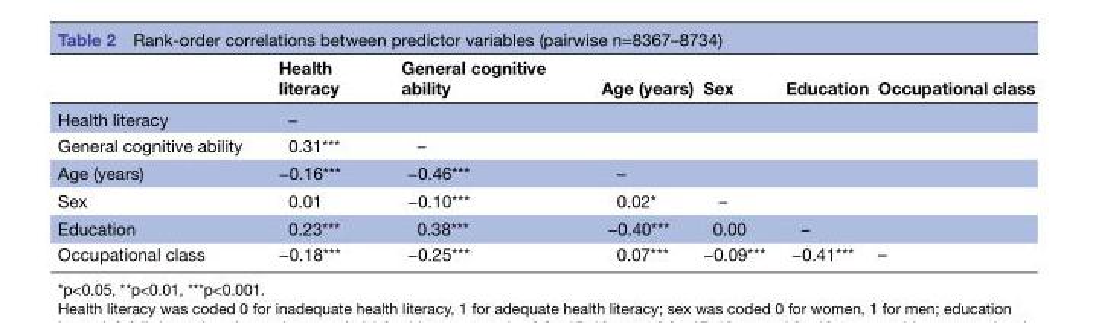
<table><thead><tr><td></td><td>Health literacy</td><td>General cognitive ability</td><td>Age (years)</td><td>Sex</td><td>Education</td><td>Occupational class</td></tr></thead><tbody><tr><td>Health literacy</td><td>–</td><td></td><td></td><td></td><td></td><td></td></tr><tr><td>General cognitive ability</td><td>0.31***</td><td>–</td><td></td><td></td><td></td><td></td></tr><tr><td>Age (years)</td><td>−0.16***</td><td>−0.46***</td><td>–</td><td></td><td></td><td></td></tr><tr><td>Sex</td><td>0.01</td><td>−0.10***</td><td>0.02*</td><td>–</td><td></td><td></td></tr><tr><td>Education</td><td>0.23***</td><td>0.38***</td><td>−0.40***</td><td>0.00</td><td>–</td><td></td></tr><tr><td>Occupational class</td><td>−0.18***</td><td>−0.25***</td><td>0.07***</td><td>−0.09***</td><td>−0.41***</td><td>–</td></tr></tbody></table>